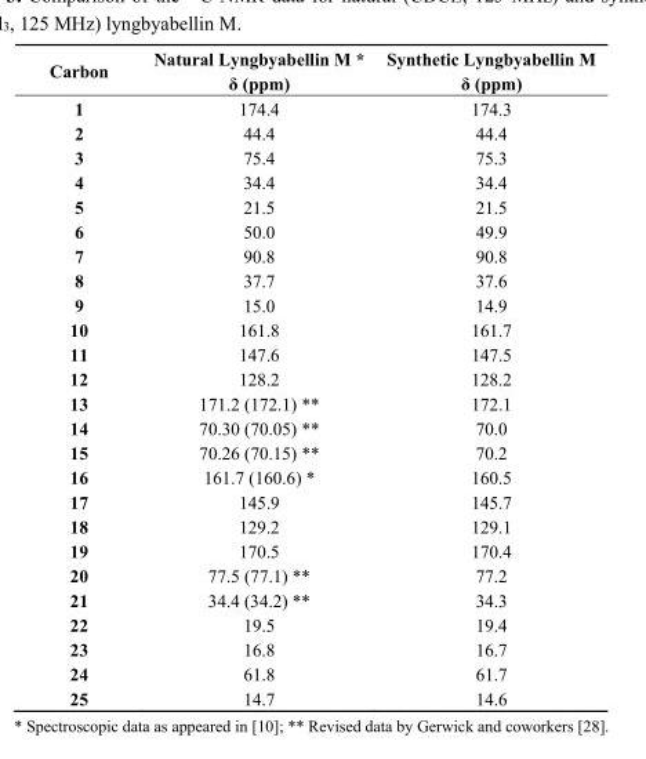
<table><thead><tr><td>Carbon</td><td>Natural Lyngbyabellin M * δ (ppm)</td><td>Synthetic Lyngbyabellin M δ (ppm)</td></tr></thead><tbody><tr><td>1</td><td>174.4</td><td>174.3</td></tr><tr><td>2</td><td>44.4</td><td>44.4</td></tr><tr><td>3</td><td>75.4</td><td>75.3</td></tr><tr><td>4</td><td>34.4</td><td>34.4</td></tr><tr><td>5</td><td>21.5</td><td>21.5</td></tr><tr><td>6</td><td>50.0</td><td>49.9</td></tr><tr><td>7</td><td>90.8</td><td>90.8</td></tr><tr><td>8</td><td>37.7</td><td>37.6</td></tr><tr><td>9</td><td>15.0</td><td>14.9</td></tr><tr><td>10</td><td>161.8</td><td>161.7</td></tr><tr><td>11</td><td>147.6</td><td>147.5</td></tr><tr><td>12</td><td>128.2</td><td>128.2</td></tr><tr><td>13</td><td>171.2 (172.1) **</td><td>172.1</td></tr><tr><td>14</td><td>70.30 (70.05) **</td><td>70.0</td></tr><tr><td>15</td><td>70.26 (70.15) **</td><td>70.2</td></tr><tr><td>16</td><td>161.7 (160.6) *</td><td>160.5</td></tr><tr><td>17</td><td>145.9</td><td>145.7</td></tr><tr><td>18</td><td>129.2</td><td>129.1</td></tr><tr><td>19</td><td>170.5</td><td>170.4</td></tr><tr><td>20</td><td>77.5 (77.1) **</td><td>77.2</td></tr><tr><td>21</td><td>34.4 (34.2) **</td><td>34.3</td></tr><tr><td>22</td><td>19.5</td><td>19.4</td></tr><tr><td>23</td><td>16.8</td><td>16.7</td></tr><tr><td>24</td><td>61.8</td><td>61.7</td></tr><tr><td>25</td><td>14.7</td><td>14.6</td></tr></tbody></table>